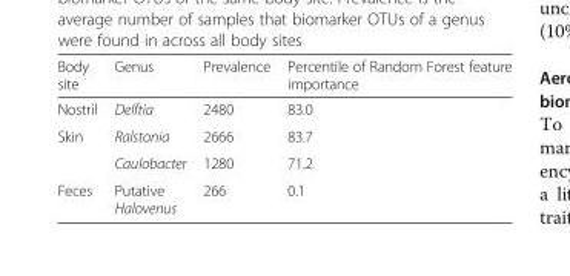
<table><thead><tr><td>Body site</td><td>Genus</td><td>Prevalence</td><td>Percentile of Random Forest feature importance</td></tr></thead><tbody><tr><td>Nostril</td><td>Delftia</td><td>2480</td><td>83.0</td></tr><tr><td rowspan="2">Skin</td><td>Ralstonia</td><td>2666</td><td>83.7</td></tr><tr><td>Caulobacter</td><td>1280</td><td>71.2</td></tr><tr><td>Feces</td><td>Putative Halovenus</td><td>266</td><td>0.1</td></tr></tbody></table>